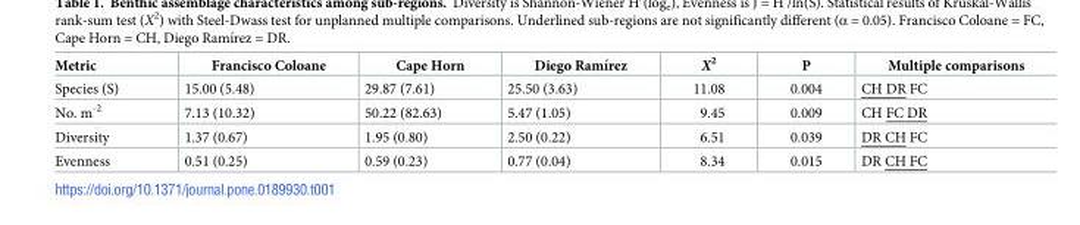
<table><thead><tr><td>Metric</td><td>Francisco Coloane</td><td>Cape Horn</td><td>Diego Ramı´rez</td><td>X<sup>2</sup></td><td>P</td><td>Multiple comparisons</td></tr></thead><tbody><tr><td>Species (S)</td><td>15.00 (5.48)</td><td>29.87 (7.61)</td><td>25.50 (3.63)</td><td>11.08</td><td>0.004</td><td>CH DR FC</td></tr><tr><td>No. m<sup>-2</sup></td><td>7.13 (10.32)</td><td>50.22 (82.63)</td><td>5.47 (1.05)</td><td>9.45</td><td>0.009</td><td>CH FC DR</td></tr><tr><td>Diversity</td><td>1.37 (0.67)</td><td>1.95 (0.80)</td><td>2.50 (0.22)</td><td>6.51</td><td>0.039</td><td>DR CH FC</td></tr><tr><td>Evenness</td><td>0.51 (0.25)</td><td>0.59 (0.23)</td><td>0.77 (0.04)</td><td>8.34</td><td>0.015</td><td>DR CH FC</td></tr></tbody></table>